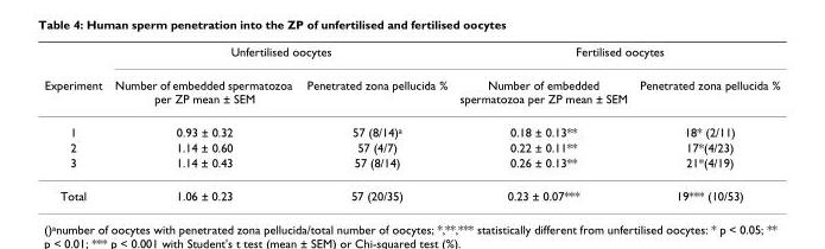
<table><thead><tr><td rowspan="2">Experiment</td><td colspan="2">Unfertilised oocytes</td><td colspan="2">Fertilised oocytes</td></tr><tr><td>Number of embedded spermatozoa per ZP mean ± SEM</td><td>Penetrated zona pellucida %</td><td>Number of embedded spermatozoa per ZP mean ± SEM</td><td>Penetrated zona pellucida %</td></tr></thead><tbody><tr><td>1</td><td>0.93 ± 0.32</td><td>57 (8/14)<sup>a</sup></td><td>0.18 ± 0.13**</td><td>18* (2/11)</td></tr><tr><td>2</td><td>1.14 ± 0.60</td><td>57 (4/7)</td><td>0.22 ± 0.11**</td><td>17*(4/23)</td></tr><tr><td>3</td><td>1.14 ± 0.43</td><td>57 (8/14)</td><td>0.26 ± 0.13**</td><td>21*(4/19)</td></tr><tr><td>Total</td><td>1.06 ± 0.23</td><td>57 (20/35)</td><td>0.23 ± 0.07***</td><td>19*** (10/53)</td></tr></tbody></table>